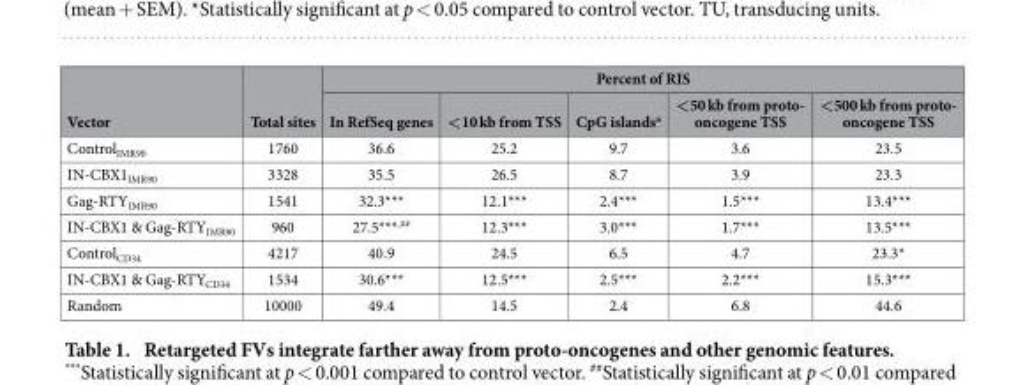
<table><thead><tr><td rowspan="2">Vector</td><td rowspan="2">Total sites</td><td colspan="5">Percent of RIS</td></tr><tr><td>In RefSeq genes</td><td>&lt;10 kb from TSS</td><td>CpG islands<sup>a</sup></td><td>&lt;50 kb from proto- oncogene TSS</td><td>&lt;500 kb from proto- oncogene TSS</td></tr></thead><tbody><tr><td>Control<sub>IMR90</sub></td><td>1760</td><td>36.6</td><td>25.2</td><td>9.7</td><td>3.6</td><td>23.5</td></tr><tr><td>IN-CBX1<sub>IMR90</sub></td><td>3328</td><td>35.5</td><td>26.5</td><td>8.7</td><td>3.9</td><td>23.3</td></tr><tr><td>Gag-RTY<sub>IMR90</sub></td><td>1541</td><td>32.3***</td><td>12.1***</td><td>2.4***</td><td>1.5***</td><td>13.4***</td></tr><tr><td>IN-CBX1 &amp; Gag-RTY<sub>IMR90</sub></td><td>960</td><td>27.5***<sup>,</sup>##</td><td>12.3***</td><td>3.0***</td><td>1.7***</td><td>13.5***</td></tr><tr><td>Control<sub>CD34</sub></td><td>4217</td><td>40.9</td><td>24.5</td><td>6.5</td><td>4.7</td><td>23.3*</td></tr><tr><td>IN-CBX1 &amp; Gag-RTY<sub>CD34</sub></td><td>1534</td><td>30.6***</td><td>12.5***</td><td>2.5***</td><td>2.2***</td><td>15.3***</td></tr><tr><td>Random</td><td>10000</td><td>49.4</td><td>14.5</td><td>2.4</td><td>6.8</td><td>44.6</td></tr></tbody></table>